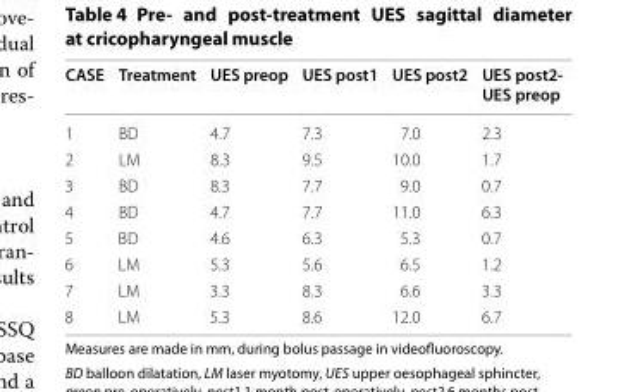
<table><thead><tr><td>CASE</td><td>Treatment</td><td>UES preop</td><td>UES post1</td><td>UES post2</td><td>UES post2- UES preop</td></tr></thead><tbody><tr><td>1</td><td>BD</td><td>4.7</td><td>7.3</td><td>7.0</td><td>2.3</td></tr><tr><td>2</td><td>LM</td><td>8.3</td><td>9.5</td><td>10.0</td><td>1.7</td></tr><tr><td>3</td><td>BD</td><td>8.3</td><td>7.7</td><td>9.0</td><td>0.7</td></tr><tr><td>4</td><td>BD</td><td>4.7</td><td>7.7</td><td>11.0</td><td>6.3</td></tr><tr><td>5</td><td>BD</td><td>4.6</td><td>6.3</td><td>5.3</td><td>0.7</td></tr><tr><td>6</td><td>LM</td><td>5.3</td><td>5.6</td><td>6.5</td><td>1.2</td></tr><tr><td>7</td><td>LM</td><td>3.3</td><td>8.3</td><td>6.6</td><td>3.3</td></tr><tr><td>8</td><td>LM</td><td>5.3</td><td>8.6</td><td>12.0</td><td>6.7</td></tr></tbody></table>